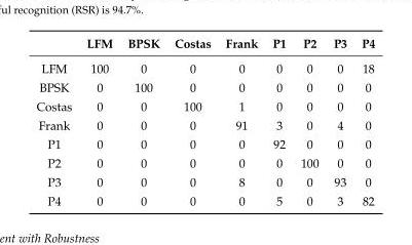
<table><thead><tr><td></td><td>LFM</td><td>BPSK</td><td>Costas</td><td>Frank</td><td>P1</td><td>P2</td><td>P3</td><td>P4</td></tr></thead><tbody><tr><td>LFM</td><td>100</td><td>0</td><td>0</td><td>0</td><td>0</td><td>0</td><td>0</td><td>18</td></tr><tr><td>BPSK</td><td>0</td><td>100</td><td>0</td><td>0</td><td>0</td><td>0</td><td>0</td><td>0</td></tr><tr><td>Costas</td><td>0</td><td>0</td><td>100</td><td>1</td><td>0</td><td>0</td><td>0</td><td>0</td></tr><tr><td>Frank</td><td>0</td><td>0</td><td>0</td><td>91</td><td>3</td><td>0</td><td>4</td><td>0</td></tr><tr><td>P1</td><td>0</td><td>0</td><td>0</td><td>0</td><td>92</td><td>0</td><td>0</td><td>0</td></tr><tr><td>P2</td><td>0</td><td>0</td><td>0</td><td>0</td><td>0</td><td>100</td><td>0</td><td>0</td></tr><tr><td>P3</td><td>0</td><td>0</td><td>0</td><td>8</td><td>0</td><td>0</td><td>93</td><td>0</td></tr><tr><td>P4</td><td>0</td><td>0</td><td>0</td><td>0</td><td>5</td><td>0</td><td>3</td><td>82</td></tr></tbody></table>